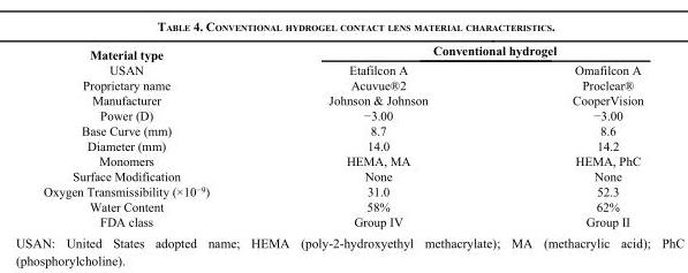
<table><thead><tr><td rowspan="2">Material type USAN</td><td colspan="2">Conventional hydrogel</td></tr><tr><td>Etafilcon A</td><td>Omafilcon A</td></tr></thead><tbody><tr><td>Proprietary name</td><td>Acuvue®2</td><td>Proclear®</td></tr><tr><td>Manufacturer</td><td>Johnson &amp; Johnson</td><td>CooperVision</td></tr><tr><td>Power (D)</td><td>−3.00</td><td>−3.00</td></tr><tr><td>Base Curve (mm)</td><td>8.7</td><td>8.6</td></tr><tr><td>Diameter (mm)</td><td>14.0</td><td>14.2</td></tr><tr><td>Monomers</td><td>HEMA, MA</td><td>HEMA, PhC</td></tr><tr><td>Surface Modification</td><td>None</td><td>None</td></tr><tr><td>Oxygen Transmissibility (×10<sup>−9</sup>)</td><td>31.0</td><td>52.3</td></tr><tr><td>Water Content</td><td>58%</td><td>62%</td></tr><tr><td>FDA class</td><td>Group IV</td><td>Group II</td></tr></tbody></table>